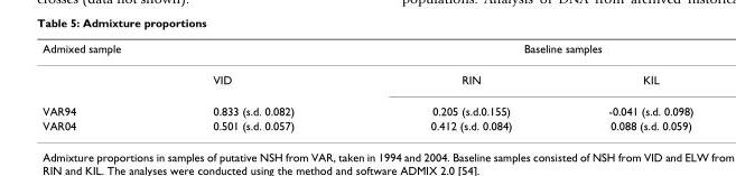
<table><thead><tr><td rowspan="2">Admixed sample</td><td rowspan="2">VID</td><td colspan="2">Baseline samples</td></tr><tr><td>RIN</td><td>KIL</td></tr></thead><tbody><tr><td>VAR94</td><td>0.833 (s.d. 0.082)</td><td>0.205 (s.d.0.155)</td><td>-0.041 (s.d. 0.098)</td></tr><tr><td>VAR04</td><td>0.501 (s.d. 0.057)</td><td>0.412 (s.d. 0.084)</td><td>0.088 (s.d. 0.059)</td></tr></tbody></table>